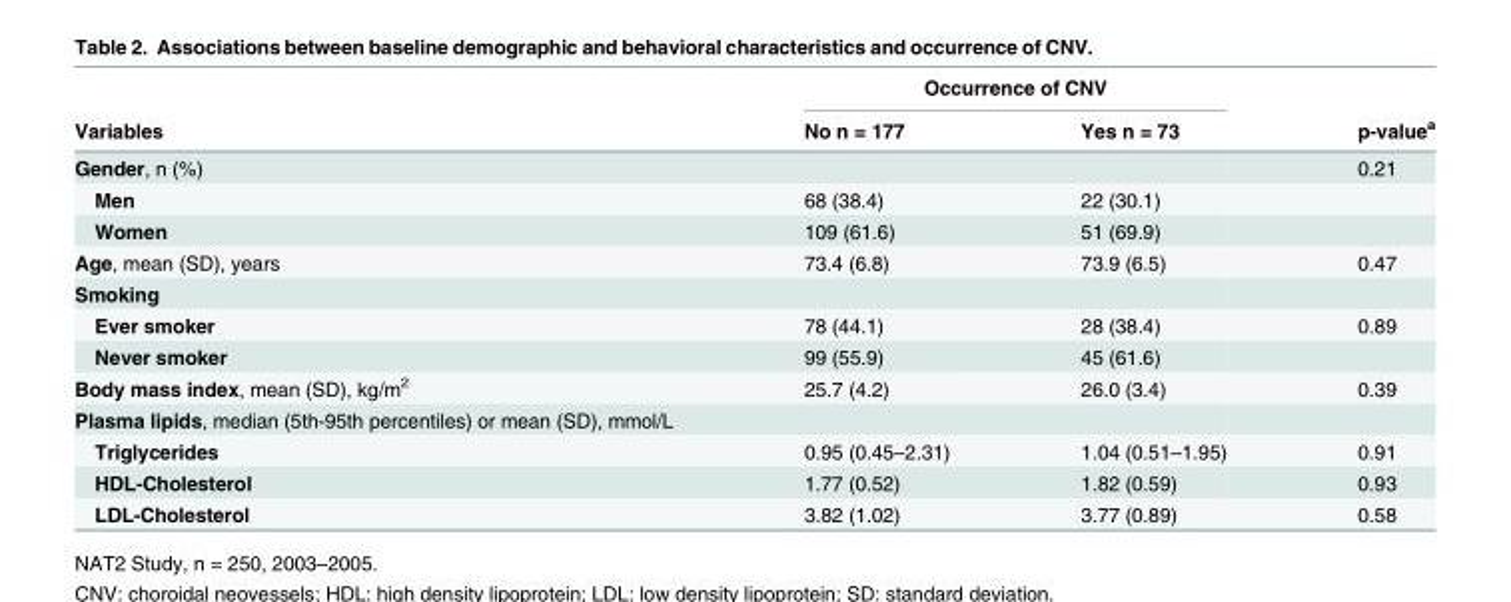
<table><thead><tr><td rowspan="2">Variables</td><td colspan="2">Occurrence of CNV</td><td rowspan="2">p-value<sup>a</sup></td></tr><tr><td>No n = 177</td><td>Yes n = 73</td></tr></thead><tbody><tr><td>Gender, n (%)</td><td></td><td></td><td>0.21</td></tr><tr><td>Men</td><td>68 (38.4)</td><td>22 (30.1)</td><td></td></tr><tr><td>Women</td><td>109 (61.6)</td><td>51 (69.9)</td><td></td></tr><tr><td>Age, mean (SD), years</td><td>73.4 (6.8)</td><td>73.9 (6.5)</td><td>0.47</td></tr><tr><td colspan="4">Smoking</td></tr><tr><td>Ever smoker</td><td>78 (44.1)</td><td>28 (38.4)</td><td>0.89</td></tr><tr><td>Never smoker</td><td>99 (55.9)</td><td>45 (61.6)</td><td></td></tr><tr><td>Body mass index, mean (SD), kg/m<sup>2</sup></td><td>25.7 (4.2)</td><td>26.0 (3.4)</td><td>0.39</td></tr><tr><td colspan="4">Plasma lipids, median (5th-95th percentiles) or mean (SD), mmol/L</td></tr><tr><td>Triglycerides</td><td>0.95 (0.45–2.31)</td><td>1.04 (0.51–1.95)</td><td>0.91</td></tr><tr><td>HDL-Cholesterol</td><td>1.77 (0.52)</td><td>1.82 (0.59)</td><td>0.93</td></tr><tr><td>LDL-Cholesterol</td><td>3.82 (1.02)</td><td>3.77 (0.89)</td><td>0.58</td></tr></tbody></table>